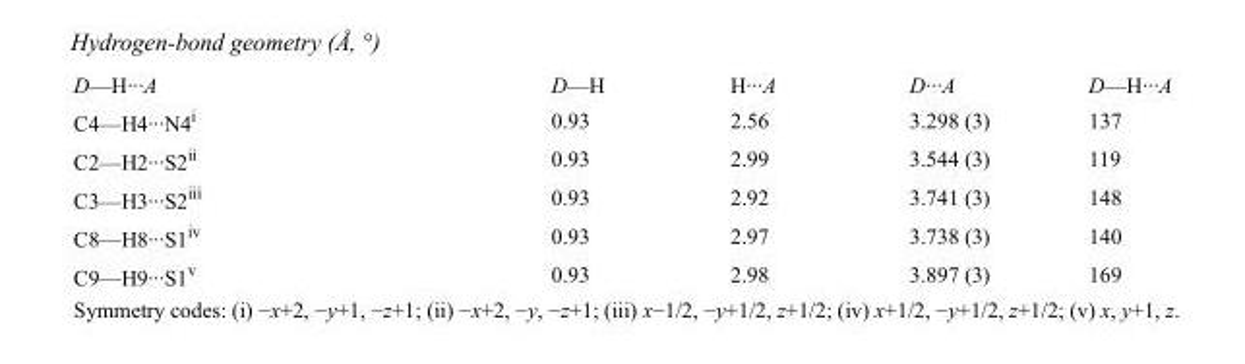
<table><tbody><tr><td>D—H···A</td><td>D—H</td><td>H···A</td><td>D···A</td><td>D—H···A</td></tr><tr><td>C4—H4···N4<sup>i</sup></td><td>0.93</td><td>2.56</td><td>3.298 (3)</td><td>137</td></tr><tr><td>C2—H2···S2<sup>ii</sup></td><td>0.93</td><td>2.99</td><td>3.544 (3)</td><td>119</td></tr><tr><td>C3—H3···S2<sup>iii</sup></td><td>0.93</td><td>2.92</td><td>3.741 (3)</td><td>148</td></tr><tr><td>C8—H8···S1<sup>iv</sup></td><td>0.93</td><td>2.97</td><td>3.738 (3)</td><td>140</td></tr><tr><td>C9—H9···S1<sup>v</sup></td><td>0.93</td><td>2.98</td><td>3.897 (3)</td><td>169</td></tr></tbody></table>